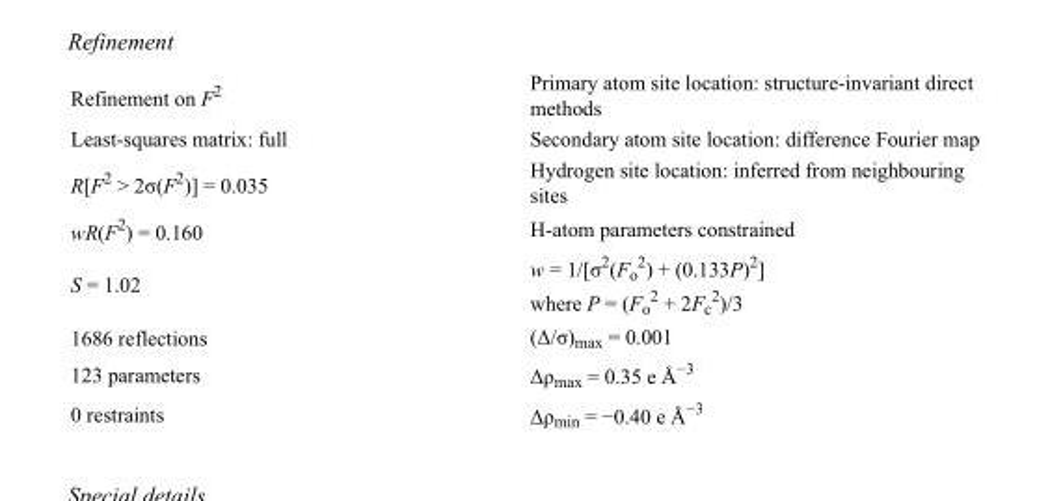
<table><tbody><tr><td>Refinement on F<sup>2</sup></td><td>Primary atom site location: structure-invariant direct methods</td></tr><tr><td>Least-squares matrix: full</td><td>Secondary atom site location: difference Fourier map</td></tr><tr><td>R[F<sup>2</sup> &gt; 2σ(F<sup>2</sup>)] = 0.035</td><td>Hydrogen site location: inferred from neighbouring sites</td></tr><tr><td>wR(F<sup>2</sup>) = 0.160</td><td>H-atom parameters constrained</td></tr><tr><td>S = 1.02</td><td>w = 1/[σ<sup>2</sup>(F<sub>o</sub> <sup>2</sup>) + (0.133P)<sup>2</sup>] where P = (F<sub>o</sub> <sup>2</sup> + 2F<sub>c</sub> <sup>2</sup>)/3</td></tr><tr><td>1686 reflections</td><td>(Δ/σ)<sub>max</sub> = 0.001</td></tr><tr><td>123 parameters</td><td>Δρ<sub>max</sub> = 0.35 e Å<sup>−3</sup></td></tr><tr><td>0 restraints</td><td>Δρ<sub>min</sub> = −0.40 e Å<sup>−3</sup></td></tr></tbody></table>